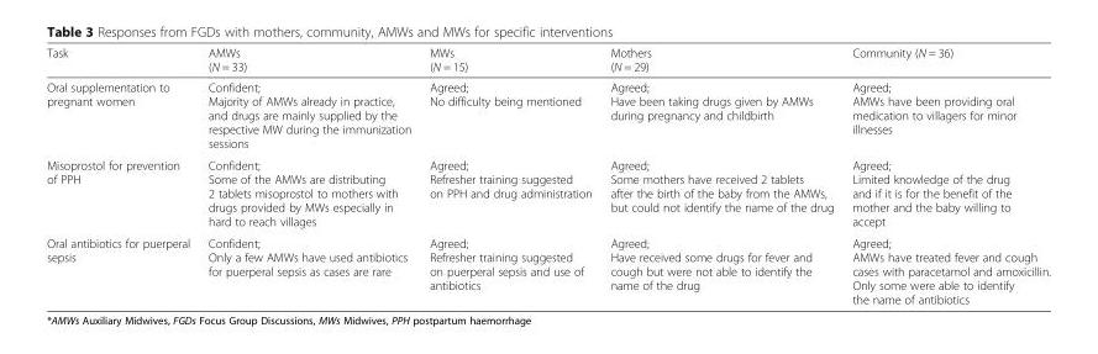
<table><thead><tr><td>Task</td><td>AMWs (N = 33)</td><td>MWs (N = 15)</td><td>Mothers (N = 29)</td><td>Community (N = 36)</td></tr></thead><tbody><tr><td>Oral supplementation to pregnant women</td><td>Confident; Majority of AMWs already in practice, and drugs are mainly supplied by the respective MW during the immunization sessions</td><td>Agreed; No difficulty being mentioned</td><td>Agreed; Have been taking drugs given by AMWs during pregnancy and childbirth</td><td>Agreed; AMWs have been providing oral medication to villagers for minor illnesses</td></tr><tr><td>Misoprostol for prevention of PPH</td><td>Confident; Some of the AMWs are distributing 2 tablets misoprostol to mothers with drugs provided by MWs especially in hard to reach villages</td><td>Agreed; Refresher training suggested on PPH and drug administration</td><td>Agreed; Some mothers have received 2 tablets after the birth of the baby from the AMWs, but could not identify the name of the drug</td><td>Agreed; Limited knowledge of the drug and if it is for the benefit of the mother and the baby willing to accept</td></tr><tr><td>Oral antibiotics for puerperal sepsis</td><td>Confident; Only a few AMWs have used antibiotics for puerperal sepsis as cases are rare</td><td>Agreed; Refresher training suggested on puerperal sepsis and use of antibiotics</td><td>Agreed; Have received some drugs for fever and cough but were not able to identify the name of the drug</td><td>Agreed; AMWs have treated fever and cough cases with paracetamol and amoxicillin. Only some were able to identify the name of antibiotics</td></tr></tbody></table>